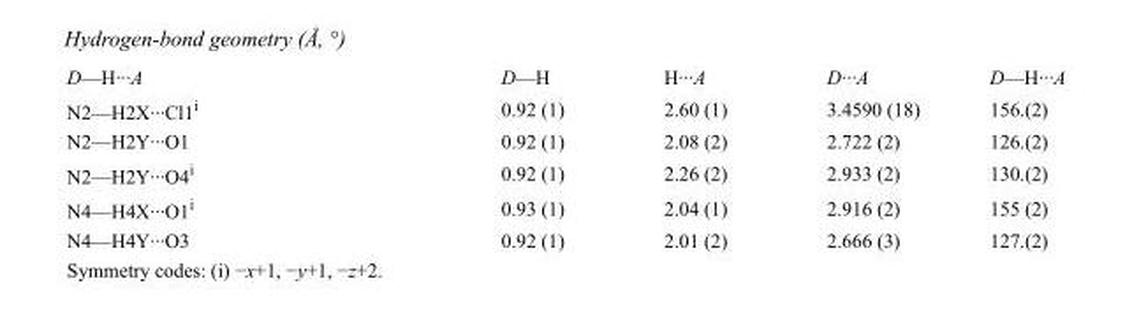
<table><tbody><tr><td>D—H···A</td><td>D—H</td><td>H···A</td><td>D···A</td><td>D—H···A</td></tr><tr><td>N2—H2X···Cl1<sup>i</sup></td><td>0.92 (1)</td><td>2.60 (1)</td><td>3.4590 (18)</td><td>156.(2)</td></tr><tr><td>N2—H2Y···O1</td><td>0.92 (1)</td><td>2.08 (2)</td><td>2.722 (2)</td><td>126.(2)</td></tr><tr><td>N2—H2Y···O4<sup>i</sup></td><td>0.92 (1)</td><td>2.26 (2)</td><td>2.933 (2)</td><td>130.(2)</td></tr><tr><td>N4—H4X···O1<sup>i</sup></td><td>0.93 (1)</td><td>2.04 (1)</td><td>2.916 (2)</td><td>155 (2)</td></tr><tr><td>N4—H4Y···O3</td><td>0.92 (1)</td><td>2.01 (2)</td><td>2.666 (3)</td><td>127.(2)</td></tr></tbody></table>